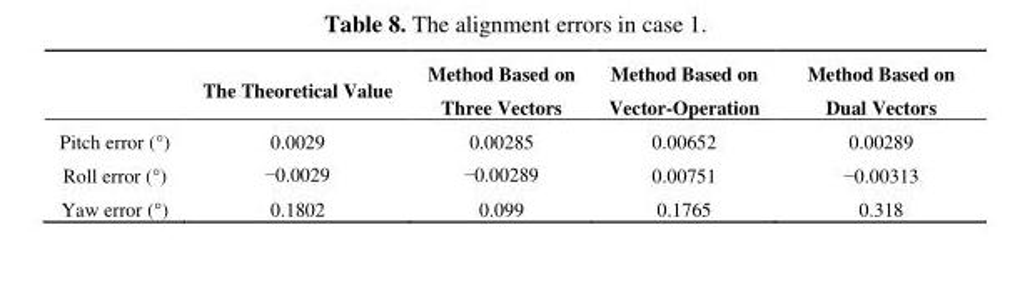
<table><thead><tr><td></td><td>The Theoretical Value</td><td>Method Based on Three Vectors</td><td>Method Based on Vector-Operation</td><td>Method Based on Dual Vectors</td></tr></thead><tbody><tr><td>Pitch error (°)</td><td>0.0029</td><td>0.00285</td><td>0.00652</td><td>0.00289</td></tr><tr><td>Roll error (°)</td><td>−0.0029</td><td>−0.00289</td><td>0.00751</td><td>−0.00313</td></tr><tr><td>Yaw error (°)</td><td>0.1802</td><td>0.099</td><td>0.1765</td><td>0.318</td></tr></tbody></table>